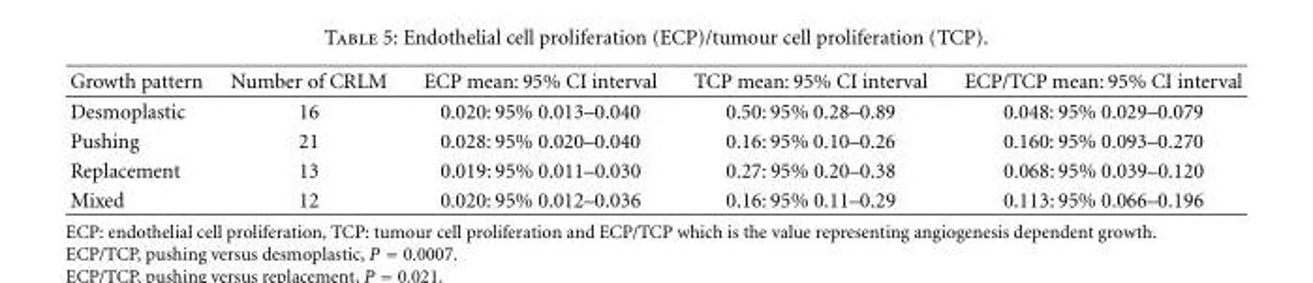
<table><thead><tr><td>Growth pattern</td><td>Number of CRLM</td><td>ECP mean: 95% CI interval</td><td>TCP mean: 95% CI interval</td><td>ECP/TCP mean: 95% CI interval</td></tr></thead><tbody><tr><td>Desmoplastic</td><td>16</td><td>0.020: 95% 0.013–0.040</td><td>0.50: 95% 0.28–0.89</td><td>0.048: 95% 0.029–0.079</td></tr><tr><td>Pushing</td><td>21</td><td>0.028: 95% 0.020–0.040</td><td>0.16: 95% 0.10–0.26</td><td>0.160: 95% 0.093–0.270</td></tr><tr><td>Replacement</td><td>13</td><td>0.019: 95% 0.011–0.030</td><td>0.27: 95% 0.20–0.38</td><td>0.068: 95% 0.039–0.120</td></tr><tr><td>Mixed</td><td>12</td><td>0.020: 95% 0.012–0.036</td><td>0.16: 95% 0.11–0.29</td><td>0.113: 95% 0.066–0.196</td></tr></tbody></table>